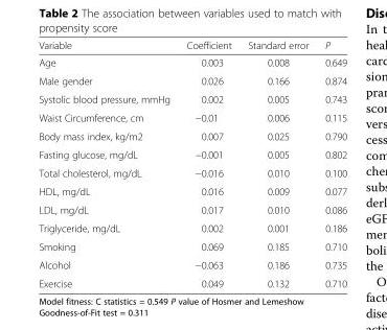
<table><thead><tr><td>Variable</td><td>Coefficient</td><td>Standard error</td><td>P</td></tr></thead><tbody><tr><td>Age</td><td>0.003</td><td>0.008</td><td>0.649</td></tr><tr><td>Male gender</td><td>0.026</td><td>0.166</td><td>0.874</td></tr><tr><td>Systolic blood pressure, mmHg</td><td>0.002</td><td>0.005</td><td>0.743</td></tr><tr><td>Waist Circumference, cm</td><td>−0.01</td><td>0.006</td><td>0.115</td></tr><tr><td>Body mass index, kg/m2</td><td>0.007</td><td>0.025</td><td>0.790</td></tr><tr><td>Fasting glucose, mg/dL</td><td>−0.001</td><td>0.005</td><td>0.802</td></tr><tr><td>Total cholesterol, mg/dL</td><td>−0.016</td><td>0.010</td><td>0.100</td></tr><tr><td>HDL, mg/dL</td><td>0.016</td><td>0.009</td><td>0.077</td></tr><tr><td>LDL, mg/dL</td><td>0.017</td><td>0.010</td><td>0.086</td></tr><tr><td>Triglyceride, mg/dL</td><td>0.002</td><td>0.001</td><td>0.186</td></tr><tr><td>Smoking</td><td>0.069</td><td>0.185</td><td>0.710</td></tr><tr><td>Alcohol</td><td>−0.063</td><td>0.186</td><td>0.735</td></tr><tr><td>Exercise</td><td>0.049</td><td>0.132</td><td>0.710</td></tr></tbody></table>